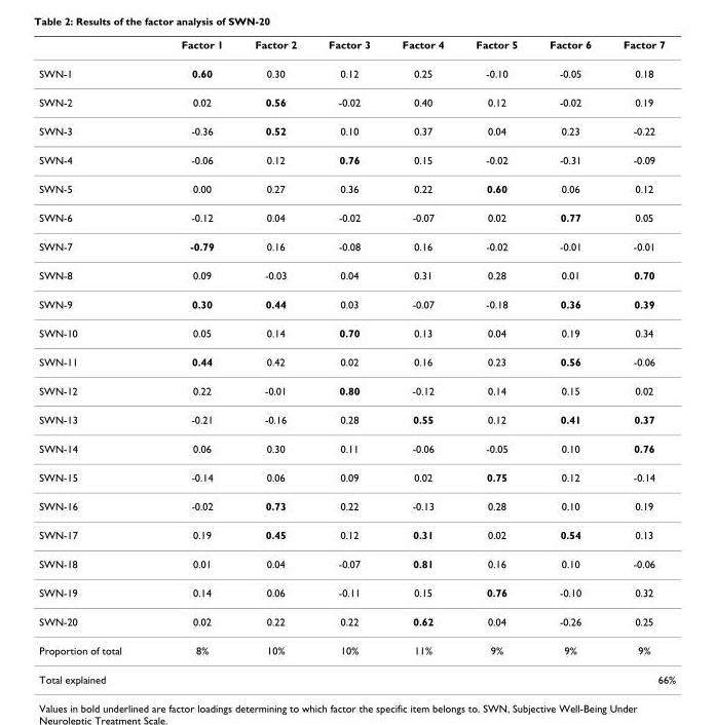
<table><thead><tr><td></td><td>Factor 1</td><td>Factor 2</td><td>Factor 3</td><td>Factor 4</td><td>Factor 5</td><td>Factor 6</td><td>Factor 7</td></tr></thead><tbody><tr><td>SWN-1</td><td>0.60</td><td>0.30</td><td>0.12</td><td>0.25</td><td>-0.10</td><td>-0.05</td><td>0.18</td></tr><tr><td>SWN-2</td><td>0.02</td><td>0.56</td><td>-0.02</td><td>0.40</td><td>0.12</td><td>-0.02</td><td>0.19</td></tr><tr><td>SWN-3</td><td>-0.36</td><td>0.52</td><td>0.10</td><td>0.37</td><td>0.04</td><td>0.23</td><td>-0.22</td></tr><tr><td>SWN-4</td><td>-0.06</td><td>0.12</td><td>0.76</td><td>0.15</td><td>-0.02</td><td>-0.31</td><td>-0.09</td></tr><tr><td>SWN-5</td><td>0.00</td><td>0.27</td><td>0.36</td><td>0.22</td><td>0.60</td><td>0.06</td><td>0.12</td></tr><tr><td>SWN-6</td><td>-0.12</td><td>0.04</td><td>-0.02</td><td>-0.07</td><td>0.02</td><td>0.77</td><td>0.05</td></tr><tr><td>SWN-7</td><td>-0.79</td><td>0.16</td><td>-0.08</td><td>0.16</td><td>-0.02</td><td>-0.01</td><td>-0.01</td></tr><tr><td>SWN-8</td><td>0.09</td><td>-0.03</td><td>0.04</td><td>0.31</td><td>0.28</td><td>0.01</td><td>0.70</td></tr><tr><td>SWN-9</td><td>0.30</td><td>0.44</td><td>0.03</td><td>-0.07</td><td>-0.18</td><td>0.36</td><td>0.39</td></tr><tr><td>SWN-10</td><td>0.05</td><td>0.14</td><td>0.70</td><td>0.13</td><td>0.04</td><td>0.19</td><td>0.34</td></tr><tr><td>SWN-11</td><td>0.44</td><td>0.42</td><td>0.02</td><td>0.16</td><td>0.23</td><td>0.56</td><td>-0.06</td></tr><tr><td>SWN-12</td><td>0.22</td><td>-0.01</td><td>0.80</td><td>-0.12</td><td>0.14</td><td>0.15</td><td>0.02</td></tr><tr><td>SWN-13</td><td>-0.21</td><td>-0.16</td><td>0.28</td><td>0.55</td><td>0.12</td><td>0.41</td><td>0.37</td></tr><tr><td>SWN-14</td><td>0.06</td><td>0.30</td><td>0.11</td><td>-0.06</td><td>-0.05</td><td>0.10</td><td>0.76</td></tr><tr><td>SWN-15</td><td>-0.14</td><td>0.06</td><td>0.09</td><td>0.02</td><td>0.75</td><td>0.12</td><td>-0.14</td></tr><tr><td>SWN-16</td><td>-0.02</td><td>0.73</td><td>0.22</td><td>-0.13</td><td>0.28</td><td>0.10</td><td>0.19</td></tr><tr><td>SWN-17</td><td>0.19</td><td>0.45</td><td>0.12</td><td>0.31</td><td>0.02</td><td>0.54</td><td>0.13</td></tr><tr><td>SWN-18</td><td>0.01</td><td>0.04</td><td>-0.07</td><td>0.81</td><td>0.16</td><td>0.10</td><td>-0.06</td></tr><tr><td>SWN-19</td><td>0.14</td><td>0.06</td><td>-0.11</td><td>0.15</td><td>0.76</td><td>-0.10</td><td>0.32</td></tr><tr><td>SWN-20</td><td>0.02</td><td>0.22</td><td>0.22</td><td>0.62</td><td>0.04</td><td>-0.26</td><td>0.25</td></tr><tr><td>Proportion of total</td><td>8%</td><td>10%</td><td>10%</td><td>11%</td><td>9%</td><td>9%</td><td>9%</td></tr><tr><td>Total explained</td><td></td><td></td><td></td><td></td><td></td><td></td><td>66%</td></tr></tbody></table>